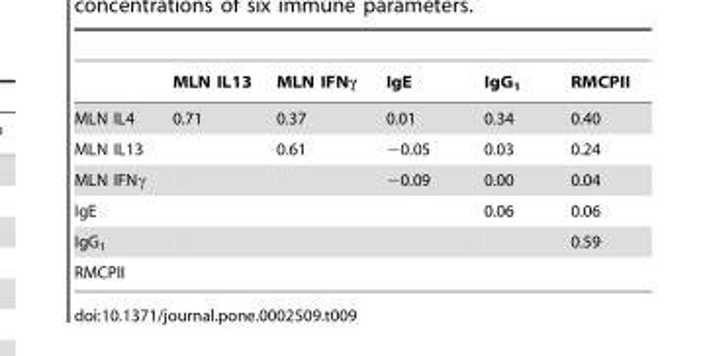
<table><thead><tr><td></td><td>MLN IL13</td><td>MLN IFNγ</td><td>IgE</td><td>IgG<sub>1</sub></td><td>RMCPII</td></tr></thead><tbody><tr><td>MLN IL4</td><td>0.71</td><td>0.37</td><td>0.01</td><td>0.34</td><td>0.40</td></tr><tr><td>MLN IL13</td><td></td><td>0.61</td><td>−0.05</td><td>0.03</td><td>0.24</td></tr><tr><td>MLN IFNγ</td><td></td><td></td><td>−0.09</td><td>0.00</td><td>0.04</td></tr><tr><td>IgE</td><td></td><td></td><td></td><td>0.06</td><td>0.06</td></tr><tr><td>IgG<sub>1</sub></td><td></td><td></td><td></td><td></td><td>0.59</td></tr><tr><td>RMCPII</td><td></td><td></td><td></td><td></td><td></td></tr></tbody></table>